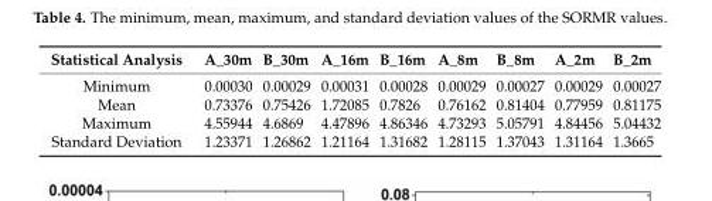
<table><thead><tr><td>Statistical Analysis</td><td>A_30m</td><td>B_30m</td><td>A_16m</td><td>B_16m</td><td>A_8m</td><td>B_8m</td><td>A_2m</td><td>B_2m</td></tr></thead><tbody><tr><td>Minimum</td><td>0.00030</td><td>0.00029</td><td>0.00031</td><td>0.00028</td><td>0.00029</td><td>0.00027</td><td>0.00029</td><td>0.00027</td></tr><tr><td>Mean</td><td>0.73376</td><td>0.75426</td><td>1.72085</td><td>0.7826</td><td>0.76162</td><td>0.81404</td><td>0.77959</td><td>0.81175</td></tr><tr><td>Maximum</td><td>4.55944</td><td>4.6869</td><td>4.47896</td><td>4.86346</td><td>4.73293</td><td>5.05791</td><td>4.84456</td><td>5.04432</td></tr><tr><td>Standard Deviation</td><td>1.23371</td><td>1.26862</td><td>1.21164</td><td>1.31682</td><td>1.28115</td><td>1.37043</td><td>1.31164</td><td>1.3665</td></tr></tbody></table>